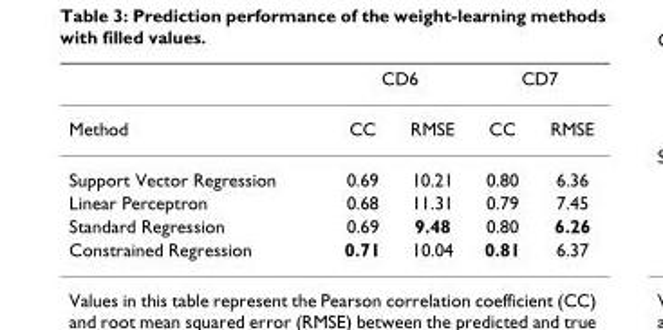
<table><thead><tr><td rowspan="2">Method</td><td colspan="2">CD6</td><td colspan="2">CD7</td></tr><tr><td>CC</td><td>RMSE</td><td>CC</td><td>RMSE</td></tr></thead><tbody><tr><td>Support Vector Regression</td><td>0.69</td><td>10.21</td><td>0.80</td><td>6.36</td></tr><tr><td>Linear Perceptron</td><td>0.68</td><td>11.31</td><td>0.79</td><td>7.45</td></tr><tr><td>Standard Regression</td><td>0.69</td><td>9.48</td><td>0.80</td><td>6.26</td></tr><tr><td>Constrained Regression</td><td>0.71</td><td>10.04</td><td>0.81</td><td>6.37</td></tr></tbody></table>